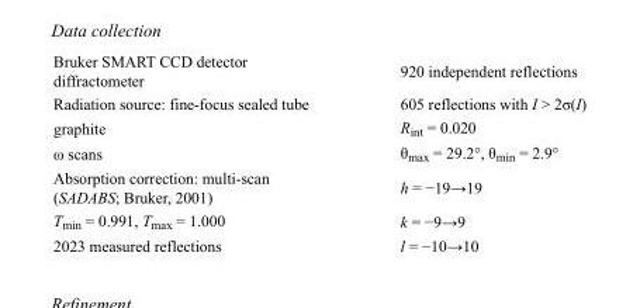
<table><tbody><tr><td>Bruker SMART CCD detector diffractometer</td><td>920 independent reflections</td></tr><tr><td>Radiation source: fine-focus sealed tube</td><td>605 reflections with I &gt; 2σ(I)</td></tr><tr><td>graphite</td><td>R<sub>int</sub> = 0.020</td></tr><tr><td>ω scans</td><td>θ<sub>max</sub> = 29.2°, θ<sub>min</sub> = 2.9°</td></tr><tr><td>Absorption correction: multi-scan (SADABS; Bruker, 2001)</td><td>h = −19→19</td></tr><tr><td>T<sub>min</sub> = 0.991, T<sub>max</sub> = 1.000</td><td>k = −9→9</td></tr><tr><td>2023 measured reflections</td><td>l = −10→10</td></tr></tbody></table>